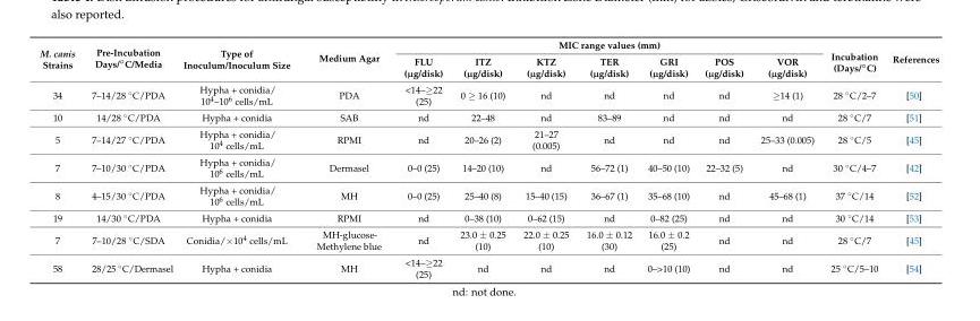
<table><thead><tr><td rowspan="2">M. canis Strains</td><td rowspan="2">Pre-Incubation Days/◦C/Media</td><td rowspan="2">Type of Inoculum/Inoculum Size</td><td rowspan="2">Medium Agar</td><td colspan="7">MIC range values (mm)</td><td rowspan="2">Incubation (Days/◦C)</td><td rowspan="2">References</td></tr><tr><td>FLU (µg/disk)</td><td>ITZ (µg/disk)</td><td>KTZ (µg/disk)</td><td>TER (µg/disk)</td><td>GRI (µg/disk)</td><td>POS (µg/disk)</td><td>VOR (µg/disk)</td></tr></thead><tbody><tr><td>34</td><td>7–14/28 ◦C/PDA</td><td>Hypha + conidia/ 10<sup>4</sup>–10<sup>6</sup> cells/mL</td><td>PDA</td><td>&lt;14–≥22 (25)</td><td>0 ≥ 16 (10)</td><td>nd</td><td>nd</td><td>nd</td><td>nd</td><td>≥14 (1)</td><td>28 ◦C/2–7</td><td>[50]</td></tr><tr><td>10</td><td>14/28 ◦C/PDA</td><td>Hypha + conidia</td><td>SAB</td><td>nd</td><td>22–48</td><td>nd</td><td>83–89</td><td>nd</td><td>nd</td><td>nd</td><td>28 ◦C/7</td><td>[51]</td></tr><tr><td>5</td><td>7–14/27 ◦C/PDA</td><td>Hypha + conidia/ 10<sup>4</sup> cells/mL</td><td>RPMI</td><td>nd</td><td>20–26 (2)</td><td>21–27 (0.005)</td><td>nd</td><td>nd</td><td>nd</td><td>25–33 (0.005)</td><td>28 ◦C/5</td><td>[45]</td></tr><tr><td>7</td><td>7–10/30 ◦C/PDA</td><td>Hypha + conidia/ 10<sup>6</sup> cells/mL</td><td>Dermasel</td><td>0–0 (25)</td><td>14–20 (10)</td><td>nd</td><td>56–72 (1)</td><td>40–50 (10)</td><td>22–32 (5)</td><td>nd</td><td>30 ◦C/4–7</td><td>[42]</td></tr><tr><td>8</td><td>4–15/30 ◦C/PDA</td><td>Hypha + conidia/ 10<sup>6</sup> cells/mL</td><td>MH</td><td>0–0 (25)</td><td>25–40 (8)</td><td>15–40 (15)</td><td>36–67 (1)</td><td>35–68 (10)</td><td>nd</td><td>45–68 (1)</td><td>37 ◦C/14</td><td>[52]</td></tr><tr><td>19</td><td>14/30 ◦C/PDA</td><td>Hypha + conidia</td><td>RPMI</td><td>nd</td><td>0–38 (10)</td><td>0–62 (15)</td><td>nd</td><td>0–82 (25)</td><td>nd</td><td>nd</td><td>30 ◦C/14</td><td>[53]</td></tr><tr><td>7</td><td>7–10/28 ◦C/SDA</td><td>Conidia/×10<sup>4</sup> cells/mL</td><td>MH-glucose- Methylene blue</td><td>nd</td><td>23.0 ± 0.25 (10)</td><td>22.0 ± 0.25 (10)</td><td>16.0 ± 0.12 (30)</td><td>16.0 ± 0.2 (25)</td><td>nd</td><td>nd</td><td>28 ◦C/7</td><td>[45]</td></tr><tr><td>58</td><td>28/25 ◦C/Dermasel</td><td>Hypha + conidia</td><td>MH</td><td>&lt;14–≥22 (25)</td><td>nd</td><td>nd</td><td>nd</td><td>0–&gt;10 (10)</td><td>nd</td><td>nd</td><td>25 ◦C/5–10</td><td>[54]</td></tr></tbody></table>